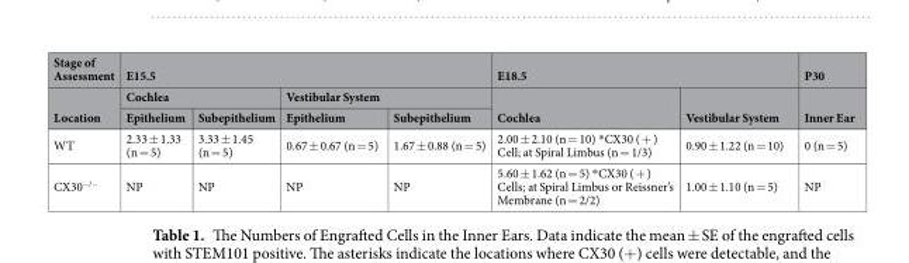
<table><thead><tr><td rowspan="3">Stage of Assessment Location</td><td colspan="4">E15.5</td><td colspan="2">E18.5</td><td rowspan="3">P30 Inner Ear</td></tr><tr><td colspan="2">Cochlea</td><td colspan="2">Vestibular System</td><td rowspan="2">Cochlea</td><td rowspan="2">Vestibular System</td></tr><tr><td>Epithelium</td><td>Subepithelium</td><td>Epithelium</td><td>Subepithelium</td></tr></thead><tbody><tr><td>WT</td><td>2.33 ± 1.33 (n = 5)</td><td>3.33 ± 1.45 (n = 5)</td><td>0.67 ± 0.67 (n = 5)</td><td>1.67 ± 0.88 (n = 5)</td><td>2.00 ± 2.10 (n = 10) *CX30 ( + ) Cell; at Spiral Limbus (n = 1/3)</td><td>0.90 ± 1.22 (n = 10)</td><td>0 (n = 5)</td></tr><tr><td>CX30<sup>−/−</sup></td><td>NP</td><td>NP</td><td>NP</td><td>NP</td><td>5.60 ± 1.62 (n = 5) *CX30 ( + ) Cells; at Spiral Limbus or Reissner’s Membrane (n = 2/2)</td><td>1.00 ± 1.10 (n = 5)</td><td>NP</td></tr></tbody></table>